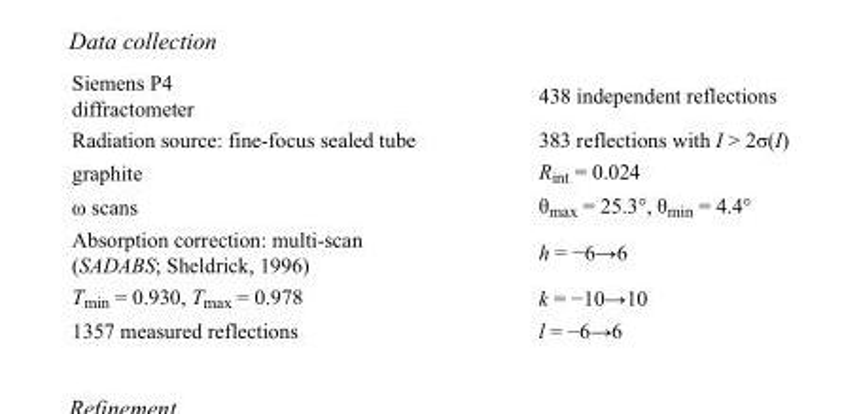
<table><tbody><tr><td>Siemens P4 diffractometer</td><td>438 independent reflections</td></tr><tr><td>Radiation source: fine-focus sealed tube</td><td>383 reflections with I &gt; 2σ(I)</td></tr><tr><td>graphite</td><td>R<sub>int</sub> = 0.024</td></tr><tr><td>ω scans</td><td>θ<sub>max</sub> = 25.3°, θ<sub>min</sub> = 4.4°</td></tr><tr><td>Absorption correction: multi-scan (SADABS; Sheldrick, 1996)</td><td>h = −6→6</td></tr><tr><td>T<sub>min</sub> = 0.930, T<sub>max</sub> = 0.978</td><td>k = −10→10</td></tr><tr><td>1357 measured reflections</td><td>l = −6→6</td></tr></tbody></table>